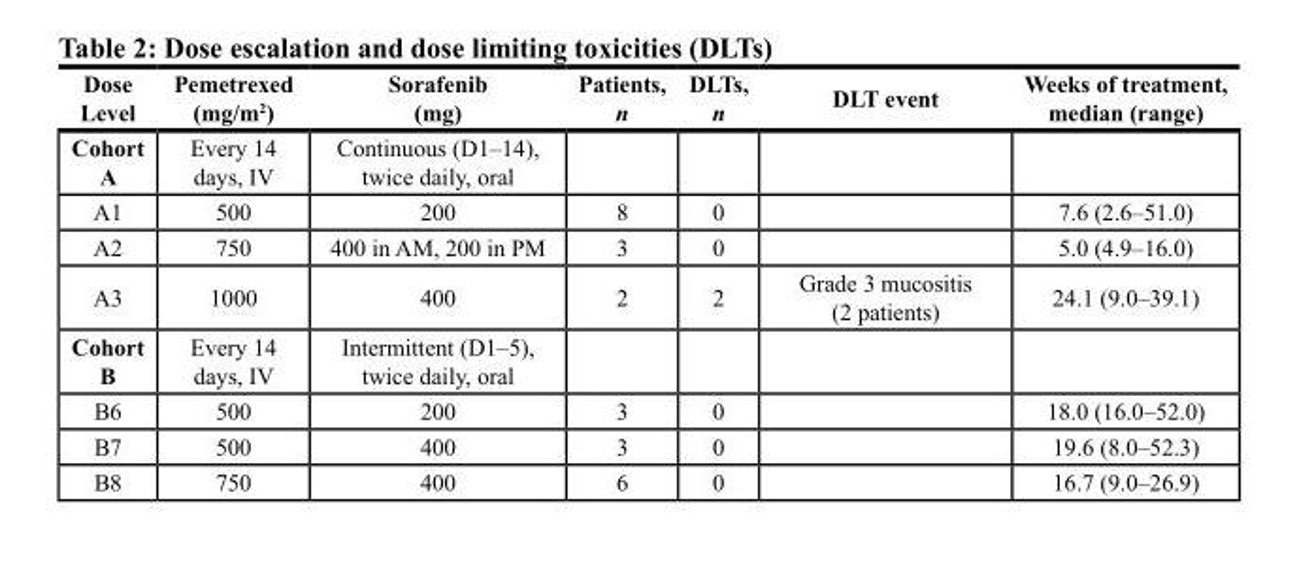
<table><thead><tr><td>Dose Level</td><td>Pemetrexed (mg/m<sup>2</sup>)</td><td>Sorafenib (mg)</td><td>Patients, n</td><td>DLTs, n</td><td>DLT event</td><td>Weeks of treatment, median (range)</td></tr></thead><tbody><tr><td>Cohort A</td><td>Every 14 days, IV</td><td>Continuous (D1–14), twice daily, oral</td><td></td><td></td><td></td><td></td></tr><tr><td>A1</td><td>500</td><td>200</td><td>8</td><td>0</td><td></td><td>7.6 (2.6–51.0)</td></tr><tr><td>A2</td><td>750</td><td>400 in AM, 200 in PM</td><td>3</td><td>0</td><td></td><td>5.0 (4.9–16.0)</td></tr><tr><td>A3</td><td>1000</td><td>400</td><td>2</td><td>2</td><td>Grade 3 mucositis (2 patients)</td><td>24.1 (9.0–39.1)</td></tr><tr><td>Cohort B</td><td>Every 14 days, IV</td><td>Intermittent (D1–5), twice daily, oral</td><td></td><td></td><td></td><td></td></tr><tr><td>B6</td><td>500</td><td>200</td><td>3</td><td>0</td><td></td><td>18.0 (16.0–52.0)</td></tr><tr><td>B7</td><td>500</td><td>400</td><td>3</td><td>0</td><td></td><td>19.6 (8.0–52.3)</td></tr><tr><td>B8</td><td>750</td><td>400</td><td>6</td><td>0</td><td></td><td>16.7 (9.0–26.9)</td></tr></tbody></table>